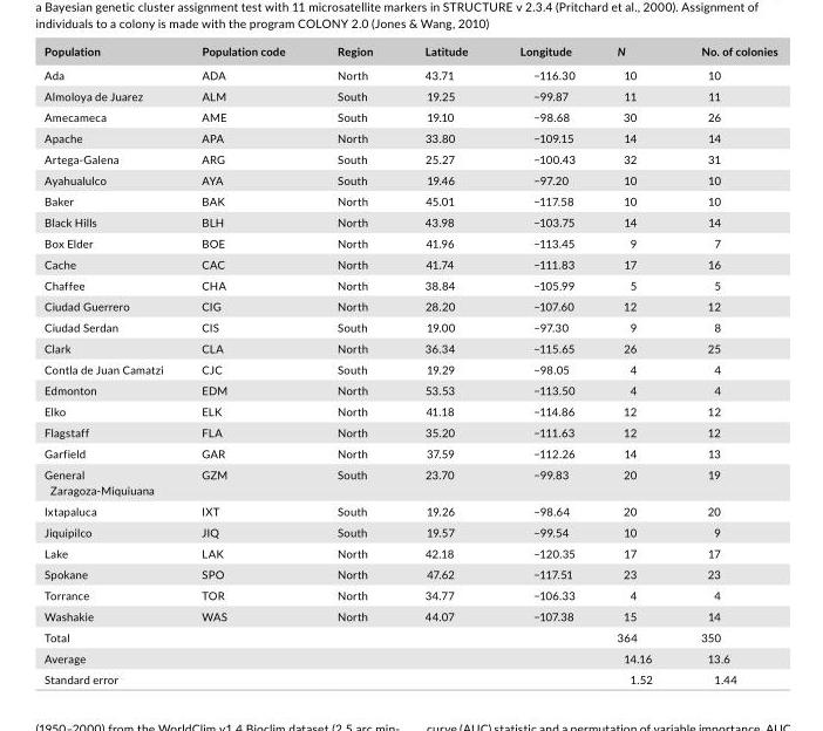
<table><thead><tr><td>Population</td><td>Population code</td><td>Region</td><td>Latitude</td><td>Longitude</td><td>N</td><td>No. of colonies</td></tr></thead><tbody><tr><td>Ada</td><td>ADA</td><td>North</td><td>43.71</td><td>−116.30</td><td>10</td><td>10</td></tr><tr><td>Almoloya de Juarez</td><td>ALM</td><td>South</td><td>19.25</td><td>−99.87</td><td>11</td><td>11</td></tr><tr><td>Amecameca</td><td>AME</td><td>South</td><td>19.10</td><td>−98.68</td><td>30</td><td>26</td></tr><tr><td>Apache</td><td>APA</td><td>North</td><td>33.80</td><td>−109.15</td><td>14</td><td>14</td></tr><tr><td>Artega- Galena</td><td>ARG</td><td>South</td><td>25.27</td><td>−100.43</td><td>32</td><td>31</td></tr><tr><td>Ayahualulco</td><td>AYA</td><td>South</td><td>19.46</td><td>−97.20</td><td>10</td><td>10</td></tr><tr><td>Baker</td><td>BAK</td><td>North</td><td>45.01</td><td>−117.58</td><td>10</td><td>10</td></tr><tr><td>Black Hills</td><td>BLH</td><td>North</td><td>43.98</td><td>−103.75</td><td>14</td><td>14</td></tr><tr><td>Box Elder</td><td>BOE</td><td>North</td><td>41.96</td><td>−113.45</td><td>9</td><td>7</td></tr><tr><td>Cache</td><td>CAC</td><td>North</td><td>41.74</td><td>−111.83</td><td>17</td><td>16</td></tr><tr><td>Chaffee</td><td>CHA</td><td>North</td><td>38.84</td><td>−105.99</td><td>5</td><td>5</td></tr><tr><td>Ciudad Guerrero</td><td>CIG</td><td>North</td><td>28.20</td><td>−107.60</td><td>12</td><td>12</td></tr><tr><td>Ciudad Serdan</td><td>CIS</td><td>South</td><td>19.00</td><td>−97.30</td><td>9</td><td>8</td></tr><tr><td>Clark</td><td>CLA</td><td>North</td><td>36.34</td><td>−115.65</td><td>26</td><td>25</td></tr><tr><td>Contla de Juan Camatzi</td><td>CJC</td><td>South</td><td>19.29</td><td>−98.05</td><td>4</td><td>4</td></tr><tr><td>Edmonton</td><td>EDM</td><td>North</td><td>53.53</td><td>−113.50</td><td>4</td><td>4</td></tr><tr><td>Elko</td><td>ELK</td><td>North</td><td>41.18</td><td>−114.86</td><td>12</td><td>12</td></tr><tr><td>Flagstaff</td><td>FLA</td><td>North</td><td>35.20</td><td>−111.63</td><td>12</td><td>12</td></tr><tr><td>Garfield</td><td>GAR</td><td>North</td><td>37.59</td><td>−112.26</td><td>14</td><td>13</td></tr><tr><td>General Zaragoza- Miquiuana</td><td>GZM</td><td>South</td><td>23.70</td><td>−99.83</td><td>20</td><td>19</td></tr><tr><td>Ixtapaluca</td><td>IXT</td><td>South</td><td>19.26</td><td>−98.64</td><td>20</td><td>20</td></tr><tr><td>Jiquipilco</td><td>JIQ</td><td>South</td><td>19.57</td><td>−99.54</td><td>10</td><td>9</td></tr><tr><td>Lake</td><td>LAK</td><td>North</td><td>42.18</td><td>−120.35</td><td>17</td><td>17</td></tr><tr><td>Spokane</td><td>SPO</td><td>North</td><td>47.62</td><td>−117.51</td><td>23</td><td>23</td></tr><tr><td>Torrance</td><td>TOR</td><td>North</td><td>34.77</td><td>−106.33</td><td>4</td><td>4</td></tr><tr><td>Washakie</td><td>WAS</td><td>North</td><td>44.07</td><td>−107.38</td><td>15</td><td>14</td></tr><tr><td>Total</td><td></td><td></td><td></td><td></td><td>364</td><td>350</td></tr><tr><td>Average</td><td></td><td></td><td></td><td></td><td>14.16</td><td>13.6</td></tr><tr><td>Standard error</td><td></td><td></td><td></td><td></td><td>1.52</td><td>1.44</td></tr></tbody></table>